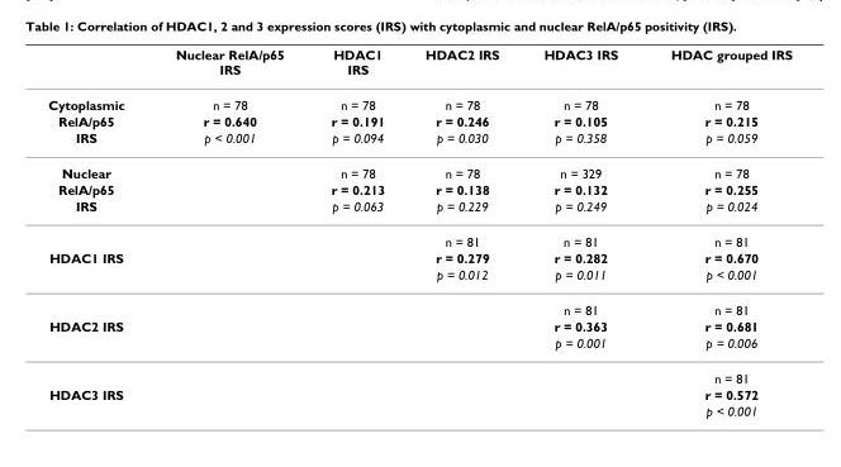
<table><thead><tr><td></td><td>Nuclear RelA/p65 IRS</td><td>HDAC1 IRS</td><td>HDAC2 IRS</td><td>HDAC3 IRS</td><td>HDAC grouped IRS</td></tr></thead><tbody><tr><td>Cytoplasmic</td><td>n = 78</td><td>n = 78</td><td>n = 78</td><td>n = 78</td><td>n = 78</td></tr><tr><td>RelA/p65</td><td>r = 0.640</td><td>r = 0.191</td><td>r = 0.246</td><td>r = 0.105</td><td>r = 0.215</td></tr><tr><td>IRS</td><td>p &lt; 0.001</td><td>p = 0.094</td><td>p = 0.030</td><td>p = 0.358</td><td>p = 0.059</td></tr><tr><td>Nuclear</td><td></td><td>n = 78</td><td>n = 78</td><td>n = 329</td><td>n = 78</td></tr><tr><td>RelA/p65</td><td></td><td>r = 0.213</td><td>r = 0.138</td><td>r = 0.132</td><td>r = 0.255</td></tr><tr><td rowspan="2">IRS</td><td></td><td>p = 0.063</td><td>p = 0.229</td><td>p = 0.249</td><td>p = 0.024</td></tr><tr><td></td><td></td><td>n = 81</td><td>n = 81</td><td>n = 81</td></tr><tr><td rowspan="3">HDAC1 IRS</td><td></td><td></td><td>r = 0.279</td><td>r = 0.282</td><td>r = 0.670</td></tr><tr><td></td><td></td><td>p = 0.012</td><td>p = 0.011</td><td>p &lt; 0.001</td></tr><tr><td></td><td></td><td></td><td>n = 81</td><td>n = 81</td></tr><tr><td rowspan="3">HDAC2 IRS</td><td></td><td></td><td></td><td>r = 0.363</td><td>r = 0.681</td></tr><tr><td></td><td></td><td></td><td>p = 0.001</td><td>p = 0.006</td></tr><tr><td></td><td></td><td></td><td></td><td>n = 81</td></tr><tr><td rowspan="2">HDAC3 IRS</td><td></td><td></td><td></td><td></td><td>r = 0.572</td></tr><tr><td></td><td></td><td></td><td></td><td>p &lt; 0.001</td></tr></tbody></table>